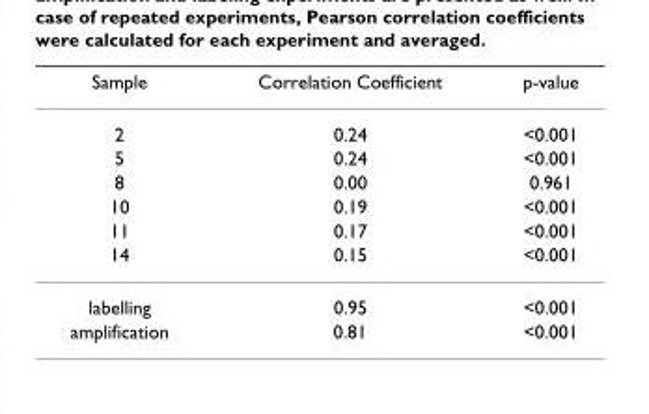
<table><thead><tr><td>Sample</td><td>Correlation Coefficient</td><td>p-value</td></tr></thead><tbody><tr><td>2</td><td>0.24</td><td>&lt;0.001</td></tr><tr><td>5</td><td>0.24</td><td>&lt;0.001</td></tr><tr><td>8</td><td>0.00</td><td>0.961</td></tr><tr><td>10</td><td>0.19</td><td>&lt;0.001</td></tr><tr><td>11</td><td>0.17</td><td>&lt;0.001</td></tr><tr><td>14</td><td>0.15</td><td>&lt;0.001</td></tr><tr><td>labelling</td><td>0.95</td><td>&lt;0.001</td></tr><tr><td>amplification</td><td>0.81</td><td>&lt;0.001</td></tr></tbody></table>